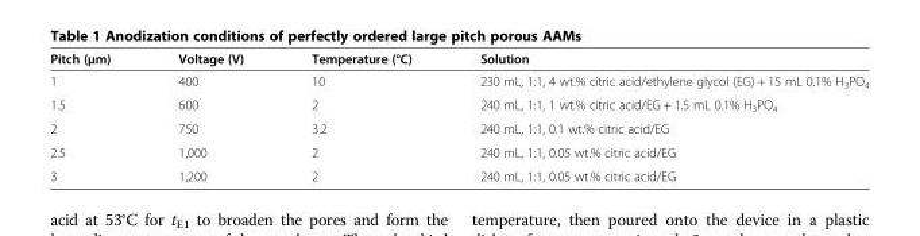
<table><thead><tr><td>Pitch (μm)</td><td>Voltage (V)</td><td>Temperature (°C)</td><td>Solution</td></tr></thead><tbody><tr><td>1</td><td>400</td><td>10</td><td>230 mL, 1:1, 4 wt.% citric acid/ethylene glycol (EG) + 15 mL 0.1% H<sub>3</sub>PO<sub>4</sub></td></tr><tr><td>1.5</td><td>600</td><td>2</td><td>240 mL, 1:1, 1 wt.% citric acid/EG + 1.5 mL 0.1% H<sub>3</sub>PO<sub>4</sub></td></tr><tr><td>2</td><td>750</td><td>3.2</td><td>240 mL, 1:1, 0.1 wt.% citric acid/EG</td></tr><tr><td>2.5</td><td>1,000</td><td>2</td><td>240 mL, 1:1, 0.05 wt.% citric acid/EG</td></tr><tr><td>3</td><td>1,200</td><td>2</td><td>240 mL, 1:1, 0.05 wt.% citric acid/EG</td></tr></tbody></table>